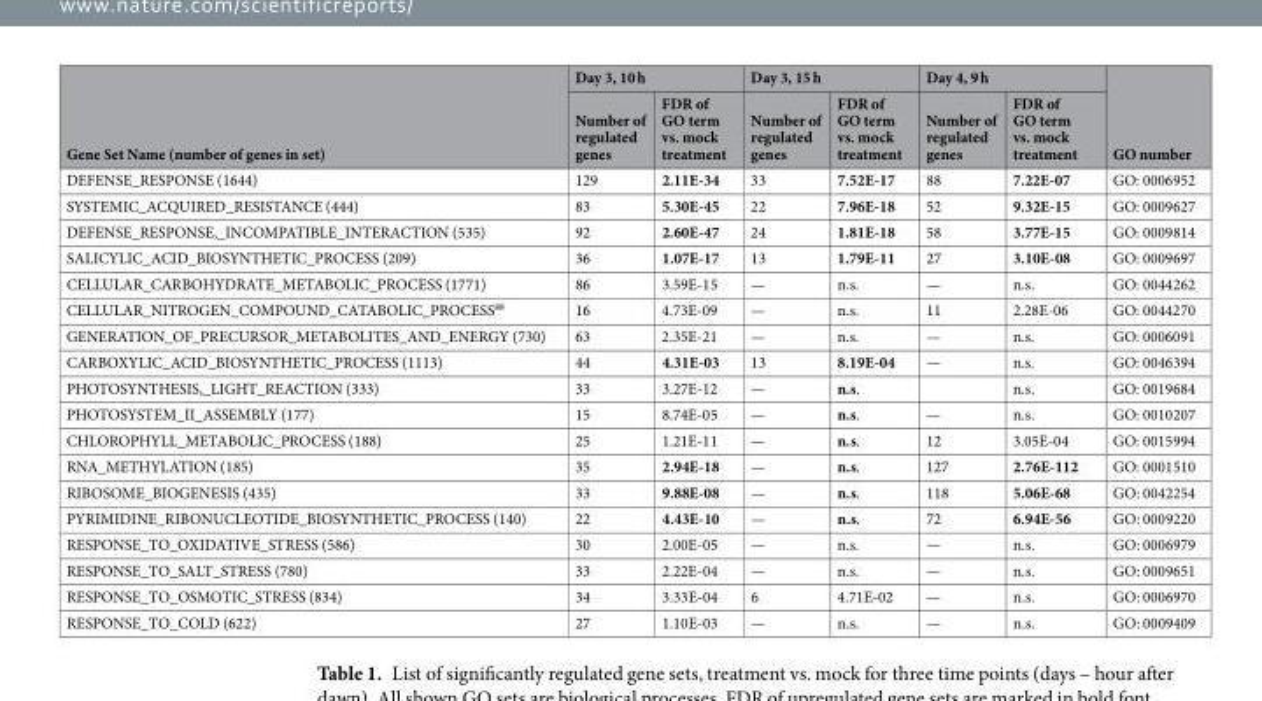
<table><thead><tr><td rowspan="2">Gene Set Name (number of genes in set)</td><td colspan="2">Day 3, 10 h</td><td colspan="2">Day 3, 15 h</td><td colspan="2">Day 4, 9 h</td><td rowspan="2">GO number</td></tr><tr><td>Number of regulated genes</td><td>FDR of GO term vs. mock treatment</td><td>Number of regulated genes</td><td>FDR of GO term vs. mock treatment</td><td>Number of regulated genes</td><td>FDR of GO term vs. mock treatment</td></tr></thead><tbody><tr><td>DEFENSE_RESPONSE (1644)</td><td>129</td><td>2.11E-34</td><td>33</td><td>7.52E-17</td><td>88</td><td>7.22E-07</td><td>GO: 0006952</td></tr><tr><td>SYSTEMIC_ACQUIRED_RESISTANCE (444)</td><td>83</td><td>5.30E-45</td><td>22</td><td>7.96E-18</td><td>52</td><td>9.32E-15</td><td>GO: 0009627</td></tr><tr><td>DEFENSE_RESPONSE,_INCOMPATIBLE_INTERACTION (535)</td><td>92</td><td>2.60E-47</td><td>24</td><td>1.81E-18</td><td>58</td><td>3.77E-15</td><td>GO: 0009814</td></tr><tr><td>SALICYLIC_ACID_BIOSYNTHETIC_PROCESS (209)</td><td>36</td><td>1.07E-17</td><td>13</td><td>1.79E-11</td><td>27</td><td>3.10E-08</td><td>GO: 0009697</td></tr><tr><td>CELLULAR_CARBOHYDRATE_METABOLIC_PROCESS (1771)</td><td>86</td><td>3.59E-15</td><td>—</td><td>n.s.</td><td>—</td><td>n.s.</td><td>GO: 0044262</td></tr><tr><td>CELLULAR_NITROGEN_COMPOUND_CATABOLIC_PROCESS<sup>88</sup></td><td>16</td><td>4.73E-09</td><td>—</td><td>n.s.</td><td>11</td><td>2.28E-06</td><td>GO: 0044270</td></tr><tr><td>GENERATION_OF_PRECURSOR_METABOLITES_AND_ENERGY (730)</td><td>63</td><td>2.35E-21</td><td>—</td><td>n.s.</td><td>—</td><td>n.s.</td><td>GO: 0006091</td></tr><tr><td>CARBOXYLIC_ACID_BIOSYNTHETIC_PROCESS (1113)</td><td>44</td><td>4.31E-03</td><td>13</td><td>8.19E-04</td><td>—</td><td>n.s.</td><td>GO: 0046394</td></tr><tr><td>PHOTOSYNTHESIS,_LIGHT_REACTION (333)</td><td>33</td><td>3.27E-12</td><td>—</td><td>n.s.</td><td></td><td>n.s.</td><td>GO: 0019684</td></tr><tr><td>PHOTOSYSTEM_II_ASSEMBLY (177)</td><td>15</td><td>8.74E-05</td><td>—</td><td>n.s.</td><td>—</td><td>n.s.</td><td>GO: 0010207</td></tr><tr><td>CHLOROPHYLL_METABOLIC_PROCESS (188)</td><td>25</td><td>1.21E-11</td><td>—</td><td>n.s.</td><td>12</td><td>3.05E-04</td><td>GO: 0015994</td></tr><tr><td>RNA_METHYLATION (185)</td><td>35</td><td>2.94E-18</td><td>—</td><td>n.s.</td><td>127</td><td>2.76E-112</td><td>GO: 0001510</td></tr><tr><td>RIBOSOME_BIOGENESIS (435)</td><td>33</td><td>9.88E-08</td><td>—</td><td>n.s.</td><td>118</td><td>5.06E-68</td><td>GO: 0042254</td></tr><tr><td>PYRIMIDINE_RIBONUCLEOTIDE_BIOSYNTHETIC_PROCESS (140)</td><td>22</td><td>4.43E-10</td><td>—</td><td>n.s.</td><td>72</td><td>6.94E-56</td><td>GO: 0009220</td></tr><tr><td>RESPONSE_TO_OXIDATIVE_STRESS (586)</td><td>30</td><td>2.00E-05</td><td>—</td><td>n.s.</td><td>—</td><td>n.s.</td><td>GO: 0006979</td></tr><tr><td>RESPONSE_TO_SALT_STRESS (780)</td><td>33</td><td>2.22E-04</td><td>—</td><td>n.s.</td><td>—</td><td>n.s.</td><td>GO: 0009651</td></tr><tr><td>RESPONSE_TO_OSMOTIC_STRESS (834)</td><td>34</td><td>3.33E-04</td><td>6</td><td>4.71E-02</td><td>—</td><td>n.s.</td><td>GO: 0006970</td></tr><tr><td>RESPONSE_TO_COLD (622)</td><td>27</td><td>1.10E-03</td><td>—</td><td>n.s.</td><td>—</td><td>n.s.</td><td>GO: 0009409</td></tr></tbody></table>